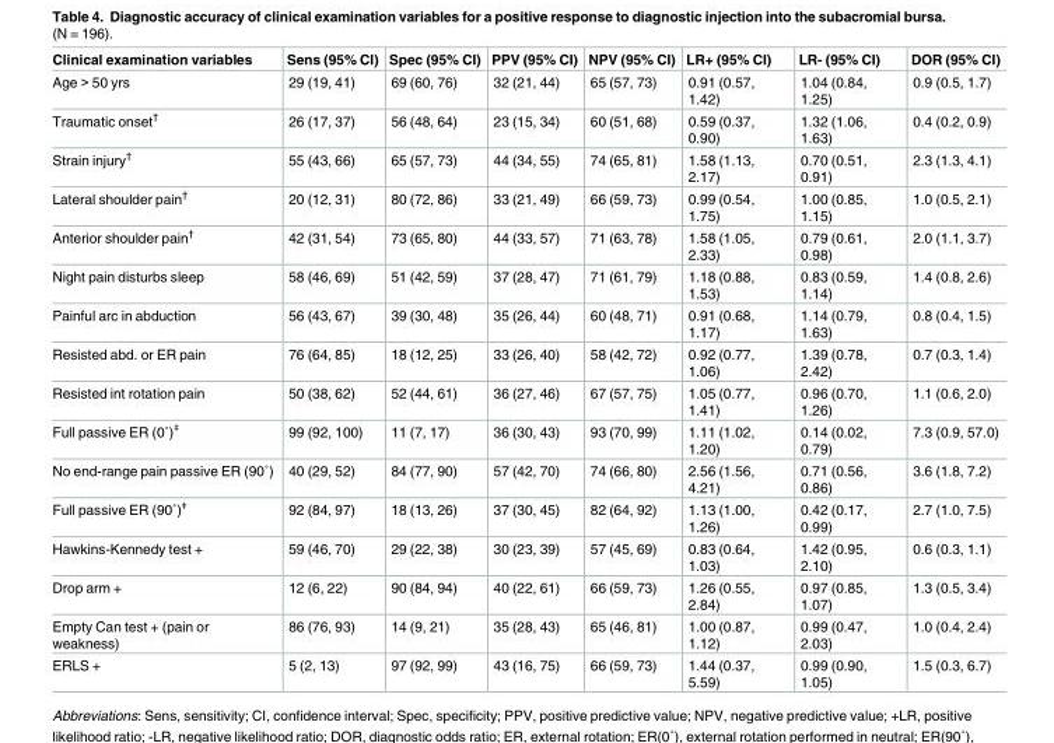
<table><thead><tr><td>Clinical examination variables</td><td>Sens (95% CI)</td><td>Spec (95% CI)</td><td>PPV (95% CI)</td><td>NPV (95% CI)</td><td>LR+ (95% CI)</td><td>LR- (95% CI)</td><td>DOR (95% CI)</td></tr></thead><tbody><tr><td>Age &gt; 50 yrs</td><td>29 (19, 41)</td><td>69 (60, 76)</td><td>32 (21, 44)</td><td>65 (57, 73)</td><td>0.91 (0.57, 1.42)</td><td>1.04 (0.84, 1.25)</td><td>0.9 (0.5, 1.7)</td></tr><tr><td>Traumatic onset<sup>†</sup></td><td>26 (17, 37)</td><td>56 (48, 64)</td><td>23 (15, 34)</td><td>60 (51, 68)</td><td>0.59 (0.37, 0.90)</td><td>1.32 (1.06, 1.63)</td><td>0.4 (0.2, 0.9)</td></tr><tr><td>Strain injury<sup>†</sup></td><td>55 (43, 66)</td><td>65 (57, 73)</td><td>44 (34, 55)</td><td>74 (65, 81)</td><td>1.58 (1.13, 2.17)</td><td>0.70 (0.51, 0.91)</td><td>2.3 (1.3, 4.1)</td></tr><tr><td>Lateral shoulder pain<sup>†</sup></td><td>20 (12, 31)</td><td>80 (72, 86)</td><td>33 (21, 49)</td><td>66 (59, 73)</td><td>0.99 (0.54, 1.75)</td><td>1.00 (0.85, 1.15)</td><td>1.0 (0.5, 2.1)</td></tr><tr><td>Anterior shoulder pain<sup>†</sup></td><td>42 (31, 54)</td><td>73 (65, 80)</td><td>44 (33, 57)</td><td>71 (63, 78)</td><td>1.58 (1.05, 2.33)</td><td>0.79 (0.61, 0.98)</td><td>2.0 (1.1, 3.7)</td></tr><tr><td>Night pain disturbs sleep</td><td>58 (46, 69)</td><td>51 (42, 59)</td><td>37 (28, 47)</td><td>71 (61, 79)</td><td>1.18 (0.88, 1.53)</td><td>0.83 (0.59, 1.14)</td><td>1.4 (0.8, 2.6)</td></tr><tr><td>Painful arc in abduction</td><td>56 (43, 67)</td><td>39 (30, 48)</td><td>35 (26, 44)</td><td>60 (48, 71)</td><td>0.91 (0.68, 1.17)</td><td>1.14 (0.79, 1.63)</td><td>0.8 (0.4, 1.5)</td></tr><tr><td>Resisted abd. or ER pain</td><td>76 (64, 85)</td><td>18 (12, 25)</td><td>33 (26, 40)</td><td>58 (42, 72)</td><td>0.92 (0.77, 1.06)</td><td>1.39 (0.78, 2.42)</td><td>0.7 (0.3, 1.4)</td></tr><tr><td>Resisted int rotation pain</td><td>50 (38, 62)</td><td>52 (44, 61)</td><td>36 (27, 46)</td><td>67 (57, 75)</td><td>1.05 (0.77, 1.41)</td><td>0.96 (0.70, 1.26)</td><td>1.1 (0.6, 2.0)</td></tr><tr><td>Full passive ER (0˚)ǂ</td><td>99 (92, 100)</td><td>11 (7, 17)</td><td>36 (30, 43)</td><td>93 (70, 99)</td><td>1.11 (1.02, 1.20)</td><td>0.14 (0.02, 0.79)</td><td>7.3 (0.9, 57.0)</td></tr><tr><td>No end-range pain passive ER (90˚)</td><td>40 (29, 52)</td><td>84 (77, 90)</td><td>57 (42, 70)</td><td>74 (66, 80)</td><td>2.56 (1.56, 4.21)</td><td>0.71 (0.56, 0.86)</td><td>3.6 (1.8, 7.2)</td></tr><tr><td>Full passive ER (90˚)ǂ</td><td>92 (84, 97)</td><td>18 (13, 26)</td><td>37 (30, 45)</td><td>82 (64, 92)</td><td>1.13 (1.00, 1.26)</td><td>0.42 (0.17, 0.99)</td><td>2.7 (1.0, 7.5)</td></tr><tr><td>Hawkins-Kennedy test +</td><td>59 (46, 70)</td><td>29 (22, 38)</td><td>30 (23, 39)</td><td>57 (45, 69)</td><td>0.83 (0.64, 1.03)</td><td>1.42 (0.95, 2.10)</td><td>0.6 (0.3, 1.1)</td></tr><tr><td>Drop arm +</td><td>12 (6, 22)</td><td>90 (84, 94)</td><td>40 (22, 61)</td><td>66 (59, 73)</td><td>1.26 (0.55, 2.84)</td><td>0.97 (0.85, 1.07)</td><td>1.3 (0.5, 3.4)</td></tr><tr><td>Empty Can test + (pain or weakness)</td><td>86 (76, 93)</td><td>14 (9, 21)</td><td>35 (28, 43)</td><td>65 (46, 81)</td><td>1.00 (0.87, 1.12)</td><td>0.99 (0.47, 2.03)</td><td>1.0 (0.4, 2.4)</td></tr><tr><td>ERLS +</td><td>5 (2, 13)</td><td>97 (92, 99)</td><td>43 (16, 75)</td><td>66 (59, 73)</td><td>1.44 (0.37, 5.59)</td><td>0.99 (0.90, 1.05)</td><td>1.5 (0.3, 6.7)</td></tr></tbody></table>